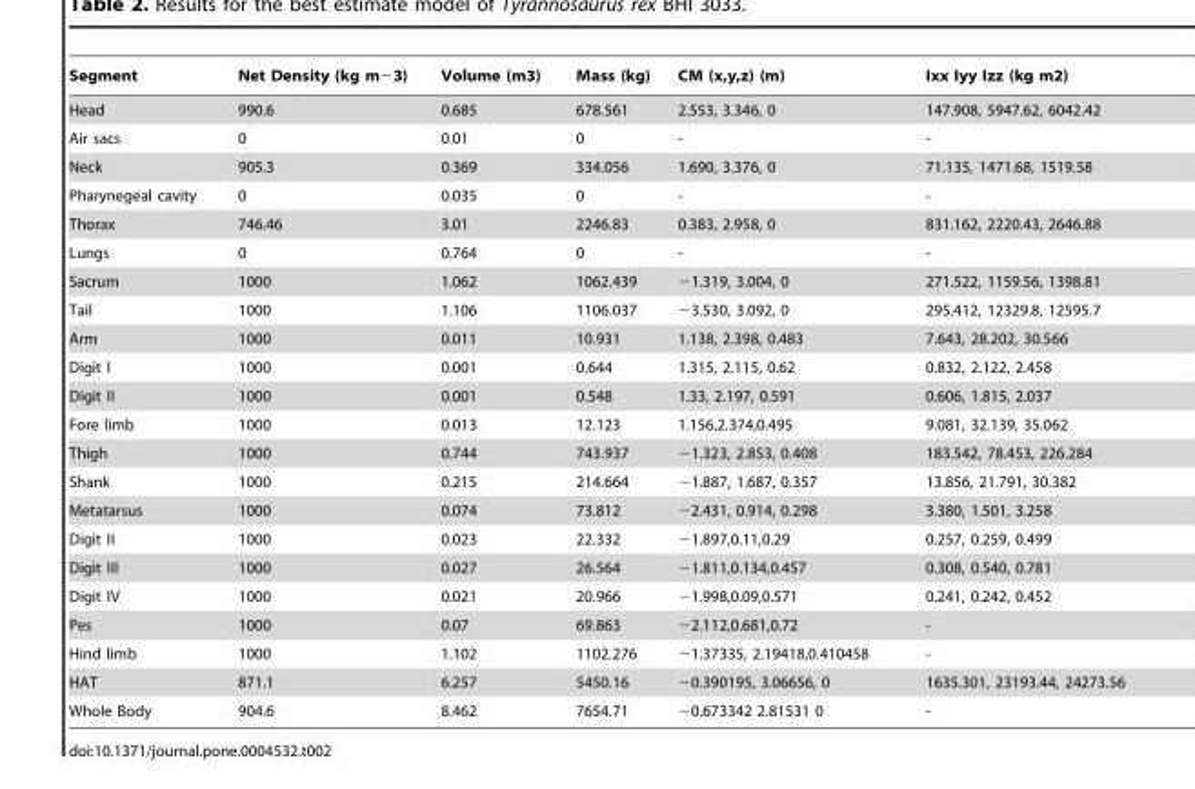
<table><thead><tr><td>Segment</td><td>Net Density (kg m−3)</td><td>Volume (m3)</td><td>Mass (kg)</td><td>CM (x,y,z) (m)</td><td>Ixx Iyy Izz (kg m2)</td></tr></thead><tbody><tr><td>Head</td><td>990.6</td><td>0.685</td><td>678.561</td><td>2.553, 3.346, 0</td><td>147.908, 5947.62, 6042.42</td></tr><tr><td>Air sacs</td><td>0</td><td>0.01</td><td>0</td><td>-</td><td>-</td></tr><tr><td>Neck</td><td>905.3</td><td>0.369</td><td>334.056</td><td>1.690, 3.376, 0</td><td>71.135, 1471.68, 1519.58</td></tr><tr><td>Pharynegeal cavity</td><td>0</td><td>0.035</td><td>0</td><td>-</td><td>-</td></tr><tr><td>Thorax</td><td>746.46</td><td>3.01</td><td>2246.83</td><td>0.383, 2.958, 0</td><td>831.162, 2220.43, 2646.88</td></tr><tr><td>Lungs</td><td>0</td><td>0.764</td><td>0</td><td>-</td><td>-</td></tr><tr><td>Sacrum</td><td>1000</td><td>1.062</td><td>1062.439</td><td>−1.319, 3.004, 0</td><td>271.522, 1159.56, 1398.81</td></tr><tr><td>Tail</td><td>1000</td><td>1.106</td><td>1106.037</td><td>−3.530, 3.092, 0</td><td>295.412, 12329.8, 12595.7</td></tr><tr><td>Arm</td><td>1000</td><td>0.011</td><td>10.931</td><td>1.138, 2.398, 0.483</td><td>7.643, 28.202, 30.566</td></tr><tr><td>Digit I</td><td>1000</td><td>0.001</td><td>0.644</td><td>1.315, 2.115, 0.62</td><td>0.832, 2.122, 2.458</td></tr><tr><td>Digit II</td><td>1000</td><td>0.001</td><td>0.548</td><td>1.33, 2.197, 0.591</td><td>0.606, 1.815, 2.037</td></tr><tr><td>Fore limb</td><td>1000</td><td>0.013</td><td>12.123</td><td>1.156,2.374,0.495</td><td>9.081, 32.139, 35.062</td></tr><tr><td>Thigh</td><td>1000</td><td>0.744</td><td>743.937</td><td>−1.323, 2.853, 0.408</td><td>183.542, 78.453, 226.284</td></tr><tr><td>Shank</td><td>1000</td><td>0.215</td><td>214.664</td><td>−1.887, 1.687, 0.357</td><td>13.856, 21.791, 30.382</td></tr><tr><td>Metatarsus</td><td>1000</td><td>0.074</td><td>73.812</td><td>−2.431, 0.914, 0.298</td><td>3.380, 1.501, 3.258</td></tr><tr><td>Digit II</td><td>1000</td><td>0.023</td><td>22.332</td><td>−1.897,0.11,0.29</td><td>0.257, 0.259, 0.499</td></tr><tr><td>Digit III</td><td>1000</td><td>0.027</td><td>26.564</td><td>−1.811,0.134,0.457</td><td>0.308, 0.540, 0.781</td></tr><tr><td>Digit IV</td><td>1000</td><td>0.021</td><td>20.966</td><td>−1.998,0.09,0.571</td><td>0.241, 0.242, 0.452</td></tr><tr><td>Pes</td><td>1000</td><td>0.07</td><td>69.863</td><td>−2.112,0.681,0.72</td><td>-</td></tr><tr><td>Hind limb</td><td>1000</td><td>1.102</td><td>1102.276</td><td>−1.37335, 2.19418,0.410458</td><td>-</td></tr><tr><td>HAT</td><td>871.1</td><td>6.257</td><td>5450.16</td><td>−0.390195, 3.06656, 0</td><td>1635.301, 23193.44, 24273.56</td></tr><tr><td>Whole Body</td><td>904.6</td><td>8.462</td><td>7654.71</td><td>−0.673342 2.81531 0</td><td>-</td></tr></tbody></table>